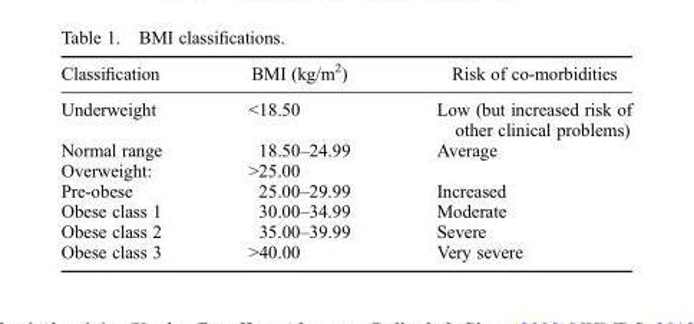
<table><thead><tr><td>Classification</td><td>BMI (kg/m<sup>2</sup>)</td><td>Risk of co-morbidities</td></tr></thead><tbody><tr><td>Underweight</td><td>&lt;18.50</td><td>Low (but increased risk of other clinical problems)</td></tr><tr><td>Normal range</td><td>18.50–24.99</td><td>Average</td></tr><tr><td>Overweight:</td><td colspan="2">&gt;25.00</td></tr><tr><td>Pre-obese</td><td>25.00–29.99</td><td>Increased</td></tr><tr><td>Obese class 1</td><td>30.00–34.99</td><td>Moderate</td></tr><tr><td>Obese class 2</td><td>35.00–39.99</td><td>Severe</td></tr><tr><td>Obese class 3</td><td>&gt;40.00</td><td>Very severe</td></tr></tbody></table>